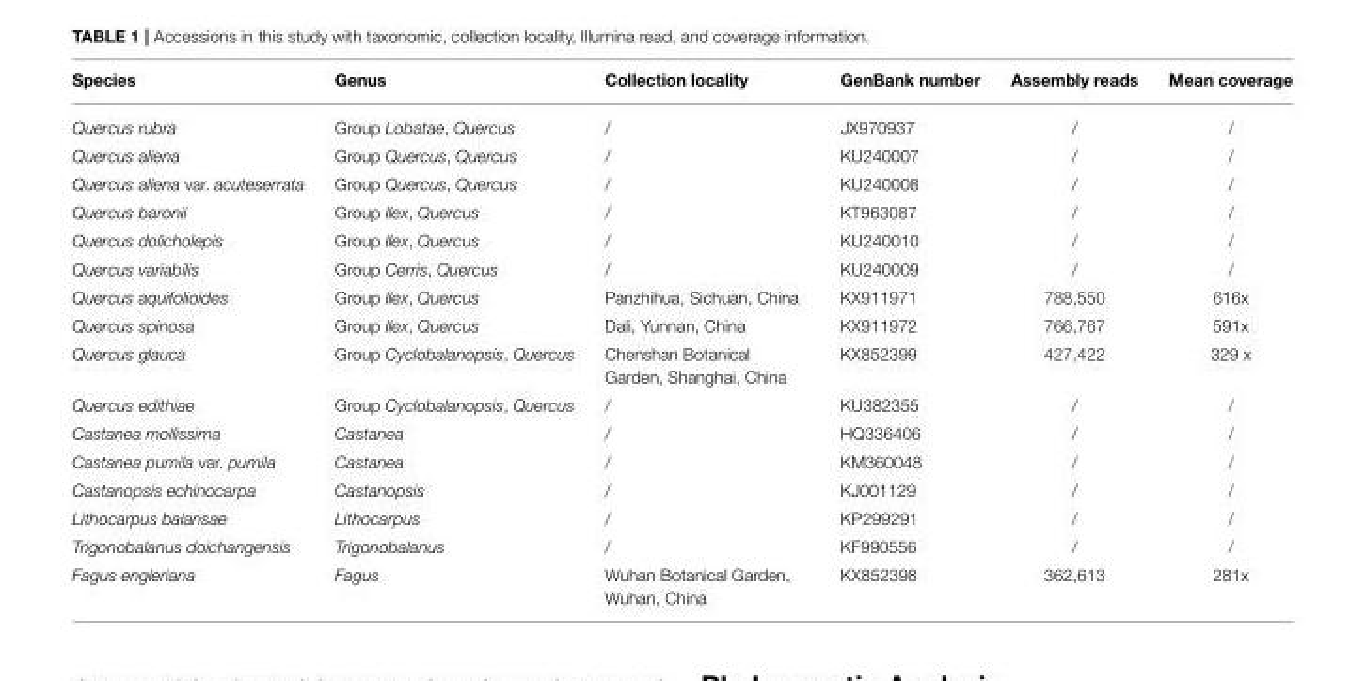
<table><thead><tr><td>Species</td><td>Genus</td><td>Collection locality</td><td>GenBank number</td><td>Assembly reads</td><td>Mean coverage</td></tr></thead><tbody><tr><td>Quercus rubra</td><td>Group Lobatae, Quercus</td><td>/</td><td>JX970937</td><td>/</td><td>/</td></tr><tr><td>Quercus aliena</td><td>Group Quercus, Quercus</td><td>/</td><td>KU240007</td><td>/</td><td>/</td></tr><tr><td>Quercus aliena var. acuteserrata</td><td>Group Quercus, Quercus</td><td>/</td><td>KU240008</td><td>/</td><td>/</td></tr><tr><td>Quercus baronii</td><td>Group Ilex, Quercus</td><td>/</td><td>KT963087</td><td>/</td><td>/</td></tr><tr><td>Quercus dolicholepis</td><td>Group Ilex, Quercus</td><td>/</td><td>KU240010</td><td>/</td><td>/</td></tr><tr><td>Quercus variabilis</td><td>Group Cerris, Quercus</td><td>/</td><td>KU240009</td><td>/</td><td>/</td></tr><tr><td>Quercus aquifolioides</td><td>Group Ilex, Quercus</td><td>Panzhihua, Sichuan, China</td><td>KX911971</td><td>788,550</td><td>616x</td></tr><tr><td>Quercus spinosa</td><td>Group Ilex, Quercus</td><td>Dali, Yunnan, China</td><td>KX911972</td><td>766,767</td><td>591x</td></tr><tr><td>Quercus glauca</td><td>Group Cyclobalanopsis, Quercus</td><td>Chenshan Botanical Garden, Shanghai, China</td><td>KX852399</td><td>427,422</td><td>329 x</td></tr><tr><td>Quercus edithiae</td><td>Group Cyclobalanopsis, Quercus</td><td>/</td><td>KU382355</td><td>/</td><td>/</td></tr><tr><td>Castanea mollissima</td><td>Castanea</td><td>/</td><td>HQ336406</td><td>/</td><td>/</td></tr><tr><td>Castanea pumila var. pumila</td><td>Castanea</td><td>/</td><td>KM360048</td><td>/</td><td>/</td></tr><tr><td>Castanopsis echinocarpa</td><td>Castanopsis</td><td>/</td><td>KJ001129</td><td>/</td><td>/</td></tr><tr><td>Lithocarpus balansae</td><td>Lithocarpus</td><td>/</td><td>KP299291</td><td>/</td><td>/</td></tr><tr><td>Trigonobalanus doichangensis</td><td>Trigonobalanus</td><td>/</td><td>KF990556</td><td>/</td><td>/</td></tr><tr><td>Fagus engleriana</td><td>Fagus</td><td>Wuhan Botanical Garden, Wuhan, China</td><td>KX852398</td><td>362,613</td><td>281x</td></tr></tbody></table>